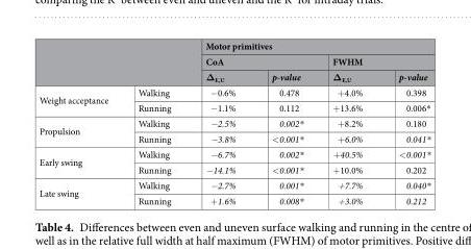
<table><thead><tr><td rowspan="3"></td><td rowspan="3"></td><td colspan="4">Motor primitives</td></tr><tr><td colspan="2">CoA</td><td colspan="2">FWHM</td></tr><tr><td>Δ<sub>E,U</sub></td><td>p-value</td><td>Δ<sub>E,U</sub></td><td>p-value</td></tr></thead><tbody><tr><td rowspan="2">Weight acceptance</td><td>Walking</td><td>−0.6%</td><td>0.478</td><td>+4.0%</td><td>0.398</td></tr><tr><td>Running</td><td>−1.1%</td><td>0.112</td><td>+13.6%</td><td>0.006*</td></tr><tr><td rowspan="2">Propulsion</td><td>Walking</td><td>−2.5%</td><td>0.002*</td><td>+8.2%</td><td>0.180</td></tr><tr><td>Running</td><td>−3.8%</td><td>&lt;0.001*</td><td>+6.0%</td><td>0.041*</td></tr><tr><td rowspan="2">Early swing</td><td>Walking</td><td>−6.7%</td><td>0.002*</td><td>+40.5%</td><td>&lt;0.001*</td></tr><tr><td>Running</td><td>−14.1%</td><td>&lt;0.001*</td><td>+10.0%</td><td>0.202</td></tr><tr><td rowspan="2">Late swing</td><td>Walking</td><td>−2.7%</td><td>0.001*</td><td>+7.7%</td><td>0.040*</td></tr><tr><td>Running</td><td>+1.6%</td><td>0.008*</td><td>+3.0%</td><td>0.212</td></tr></tbody></table>